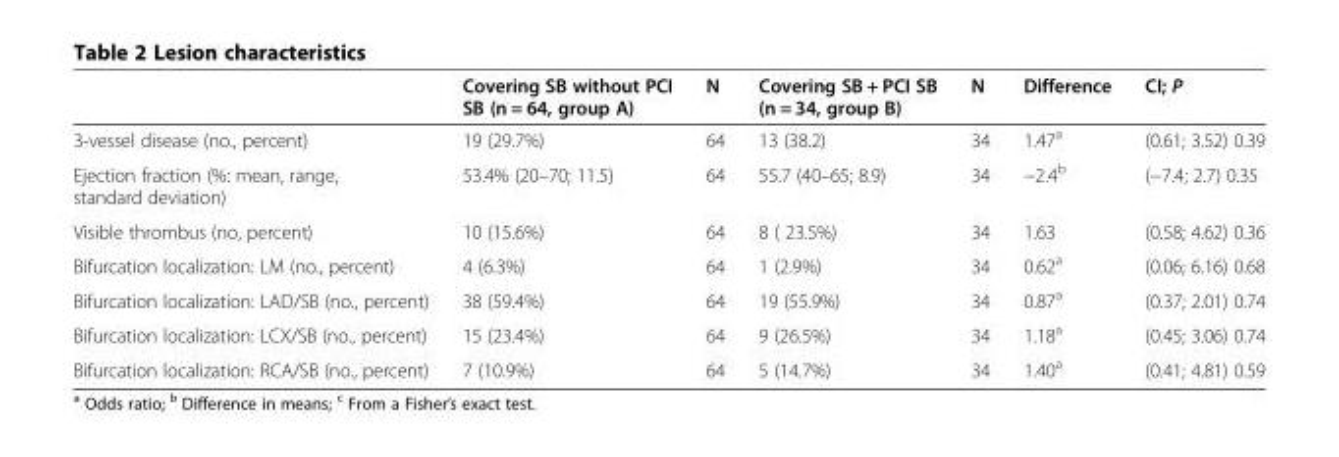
<table><thead><tr><td></td><td>Covering SB without PCI SB (n = 64, group A)</td><td>N</td><td>Covering SB + PCI SB (n = 34, group B)</td><td>N</td><td>Difference</td><td>CI; P</td></tr></thead><tbody><tr><td>3-vessel disease (no., percent)</td><td>19 (29.7%)</td><td>64</td><td>13 (38.2)</td><td>34</td><td>1.47<sup>a</sup></td><td>(0.61; 3.52) 0.39</td></tr><tr><td>Ejection fraction (%: mean, range, standard deviation)</td><td>53.4% (20–70; 11.5)</td><td>64</td><td>55.7 (40–65; 8.9)</td><td>34</td><td>−2.4<sup>b</sup></td><td>(−7.4; 2.7) 0.35</td></tr><tr><td>Visible thrombus (no, percent)</td><td>10 (15.6%)</td><td>64</td><td>8 ( 23.5%)</td><td>34</td><td>1.63</td><td>(0.58; 4.62) 0.36</td></tr><tr><td>Bifurcation localization: LM (no., percent)</td><td>4 (6.3%)</td><td>64</td><td>1 (2.9%)</td><td>34</td><td>0.62<sup>a</sup></td><td>(0.06; 6.16) 0.68</td></tr><tr><td>Bifurcation localization: LAD/SB (no., percent)</td><td>38 (59.4%)</td><td>64</td><td>19 (55.9%)</td><td>34</td><td>0.87<sup>a</sup></td><td>(0.37; 2.01) 0.74</td></tr><tr><td>Bifurcation localization: LCX/SB (no., percent)</td><td>15 (23.4%)</td><td>64</td><td>9 (26.5%)</td><td>34</td><td>1.18<sup>a</sup></td><td>(0.45; 3.06) 0.74</td></tr><tr><td>Bifurcation localization: RCA/SB (no., percent)</td><td>7 (10.9%)</td><td>64</td><td>5 (14.7%)</td><td>34</td><td>1.40<sup>a</sup></td><td>(0.41; 4.81) 0.59</td></tr></tbody></table>